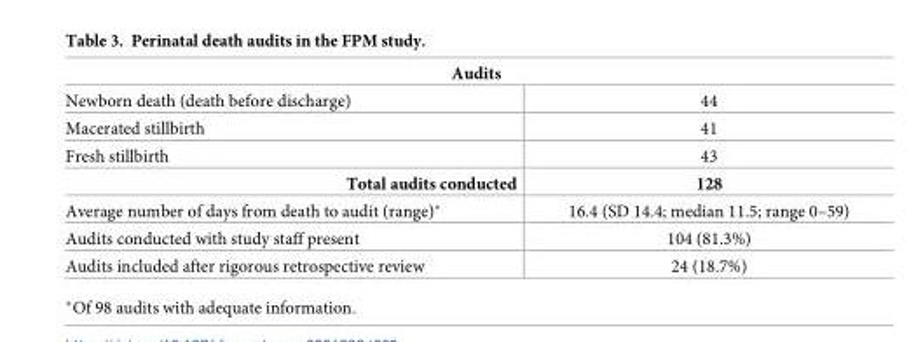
<table><thead><tr><td colspan="2">Audits</td></tr><tr><td>Newborn death (death before discharge)</td><td>44</td></tr></thead><tbody><tr><td>Macerated stillbirth</td><td>41</td></tr><tr><td>Fresh stillbirth</td><td>43</td></tr><tr><td>Total audits conducted</td><td>128</td></tr><tr><td>Average number of days from death to audit (range)*</td><td>16.4 (SD 14.4; median 11.5; range 0–59)</td></tr><tr><td>Audits conducted with study staff present</td><td>104 (81.3%)</td></tr><tr><td>Audits included after rigorous retrospective review</td><td>24 (18.7%)</td></tr></tbody></table>